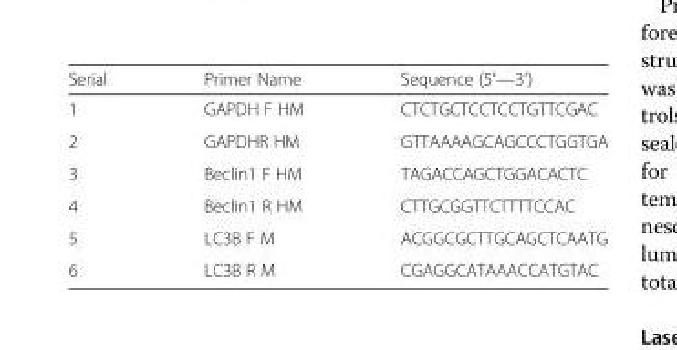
<table><thead><tr><td>Serial</td><td>Primer Name</td><td>Sequence (5′—3′)</td></tr></thead><tbody><tr><td>1</td><td>GAPDH F HM</td><td>CTCTGCTCCTCCTGTTCGAC</td></tr><tr><td>2</td><td>GAPDHR HM</td><td>GTTAAAAGCAGCCCTGGTGA</td></tr><tr><td>3</td><td>Beclin1 F HM</td><td>TAGACCAGCTGGACACTC</td></tr><tr><td>4</td><td>Beclin1 R HM</td><td>CTTGCGGTTCTTTTCCAC</td></tr><tr><td>5</td><td>LC3B F M</td><td>ACGGCGCTTGCAGCTCAATG</td></tr><tr><td>6</td><td>LC3B R M</td><td>CGAGGCATAAACCATGTAC</td></tr></tbody></table>